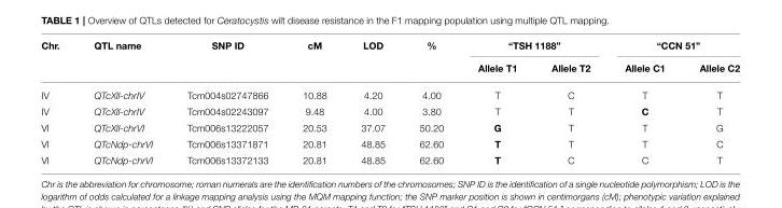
<table><thead><tr><td rowspan="2">Chr.</td><td rowspan="2">QTL name</td><td rowspan="2">SNP ID</td><td rowspan="2">cM</td><td rowspan="2">LOD</td><td rowspan="2">%</td><td colspan="2">“TSH 1188”</td><td colspan="2">“CCN 51”</td></tr><tr><td>Allele T1</td><td>Allele T2</td><td>Allele C1</td><td>Allele C2</td></tr></thead><tbody><tr><td>IV</td><td>QTcXll-chrIV</td><td>Tcm004s02747866</td><td>10.88</td><td>4.20</td><td>4.00</td><td>T</td><td>C</td><td>T</td><td>T</td></tr><tr><td>IV</td><td>QTcXll-chrIV</td><td>Tcm004s02243097</td><td>9.48</td><td>4.00</td><td>3.80</td><td>T</td><td>T</td><td>C</td><td>T</td></tr><tr><td>VI</td><td>QTcXll-chrVI</td><td>Tcm006s13222057</td><td>20.53</td><td>37.07</td><td>50.20</td><td>G</td><td>T</td><td>T</td><td>G</td></tr><tr><td>VI</td><td>QTcNdp-chrVI</td><td>Tcm006s13371871</td><td>20.81</td><td>48.85</td><td>62.60</td><td>T</td><td>T</td><td>T</td><td>C</td></tr><tr><td>VI</td><td>QTcNdp-chrVI</td><td>Tcm006s13372133</td><td>20.81</td><td>48.85</td><td>62.60</td><td>T</td><td>C</td><td>C</td><td>T</td></tr></tbody></table>